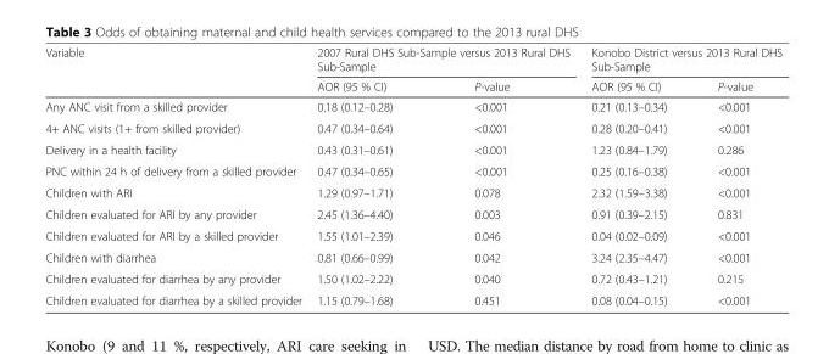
<table><thead><tr><td rowspan="2">Variable</td><td colspan="2">2007 Rural DHS Sub-Sample versus 2013 Rural DHS Sub-Sample</td><td colspan="2">Konobo District versus 2013 Rural DHS Sub-Sample</td></tr><tr><td>AOR (95 % CI)</td><td>P-value</td><td>AOR (95 % CI)</td><td>P-value</td></tr></thead><tbody><tr><td>Any ANC visit from a skilled provider</td><td>0.18 (0.12–0.28)</td><td>&lt;0.001</td><td>0.21 (0.13–0.34)</td><td>&lt;0.001</td></tr><tr><td>4+ ANC visits (1+ from skilled provider)</td><td>0.47 (0.34–0.64)</td><td>&lt;0.001</td><td>0.28 (0.20–0.41)</td><td>&lt;0.001</td></tr><tr><td>Delivery in a health facility</td><td>0.43 (0.31–0.61)</td><td>&lt;0.001</td><td>1.23 (0.84–1.79)</td><td>0.286</td></tr><tr><td>PNC within 24 h of delivery from a skilled provider</td><td>0.47 (0.34–0.65)</td><td>&lt;0.001</td><td>0.25 (0.16–0.38)</td><td>&lt;0.001</td></tr><tr><td>Children with ARI</td><td>1.29 (0.97–1.71)</td><td>0.078</td><td>2.32 (1.59–3.38)</td><td>&lt;0.001</td></tr><tr><td>Children evaluated for ARI by any provider</td><td>2.45 (1.36–4.40)</td><td>0.003</td><td>0.91 (0.39–2.15)</td><td>0.831</td></tr><tr><td>Children evaluated for ARI by a skilled provider</td><td>1.55 (1.01–2.39)</td><td>0.046</td><td>0.04 (0.02–0.09)</td><td>&lt;0.001</td></tr><tr><td>Children with diarrhea</td><td>0.81 (0.66–0.99)</td><td>0.042</td><td>3.24 (2.35–4.47)</td><td>&lt;0.001</td></tr><tr><td>Children evaluated for diarrhea by any provider</td><td>1.50 (1.02–2.22)</td><td>0.040</td><td>0.72 (0.43–1.21)</td><td>0.215</td></tr><tr><td>Children evaluated for diarrhea by a skilled provider</td><td>1.15 (0.79–1.68)</td><td>0.451</td><td>0.08 (0.04–0.15)</td><td>&lt;0.001</td></tr></tbody></table>